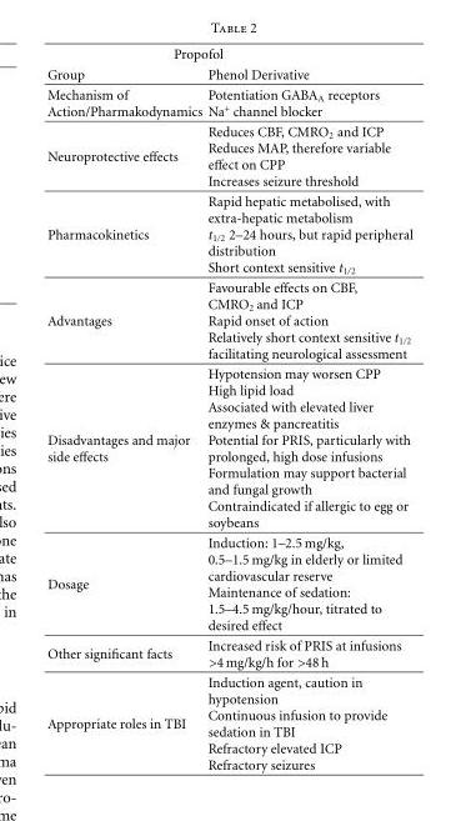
<table><thead><tr><td colspan="2">Propofol</td></tr><tr><td>Group</td><td>Phenol Derivative</td></tr></thead><tbody><tr><td>Mechanism of Action/Pharmakodynamics</td><td>Potentiation GABA<sub>A</sub> receptors Na<sup>+</sup> channel blocker</td></tr><tr><td>Neuroprotective effects</td><td>Reduces CBF, CMRO<sub>2</sub> and ICP Reduces MAP, therefore variable effect on CPP Increases seizure threshold</td></tr><tr><td>Pharmacokinetics</td><td>Rapid hepatic metabolised, with extra-hepatic metabolism t<sub>1/2</sub> 2–24 hours, but rapid peripheral distribution Short context sensitive t<sub>1/2</sub></td></tr><tr><td>Advantages</td><td>Favourable effects on CBF, CMRO<sub>2</sub> and ICP Rapid onset of action Relatively short context sensitive t<sub>1/2</sub> facilitating neurological assessment</td></tr><tr><td>Disadvantages and major side effects</td><td>Hypotension may worsen CPP High lipid load Associated with elevated liver enzymes &amp; pancreatitis Potential for PRIS, particularly with prolonged, high dose infusions Formulation may support bacterial and fungal growth Contraindicated if allergic to egg or soybeans</td></tr><tr><td>Dosage</td><td>Induction: 1–2.5 mg/kg, 0.5–1.5 mg/kg in elderly or limited cardiovascular reserve Maintenance of sedation: 1.5–4.5 mg/kg/hour, titrated to desired effect</td></tr><tr><td>Other significant facts</td><td>Increased risk of PRIS at infusions &gt;4 mg/kg/h for &gt;48 h</td></tr><tr><td>Appropriate roles in TBI</td><td>Induction agent, caution in hypotension Continuous infusion to provide sedation in TBI Refractory elevated ICP Refractory seizures</td></tr></tbody></table>